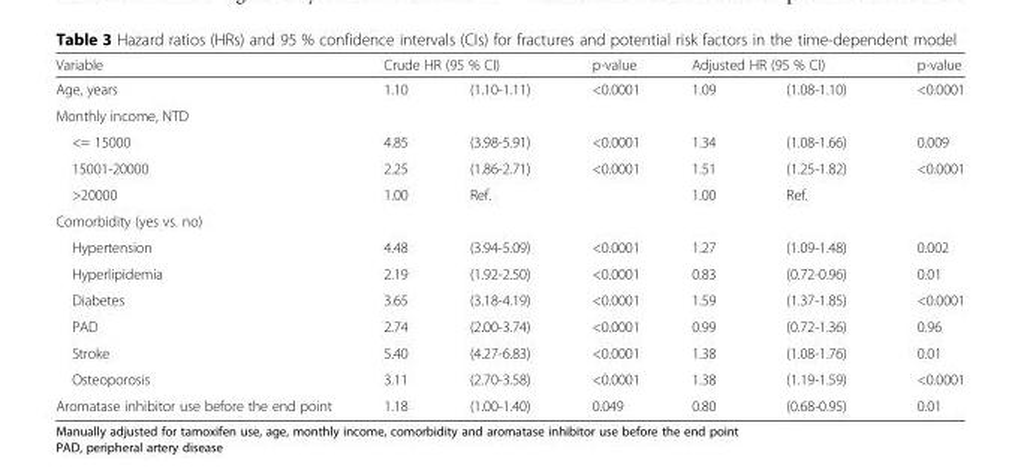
<table><thead><tr><td rowspan="2">Variable Age, years</td><td colspan="2">Crude HR (95 % CI)</td><td rowspan="2">p-value &lt;0.0001</td><td colspan="2">Adjusted HR (95 % CI)</td><td rowspan="2">p-value &lt;0.0001</td></tr><tr><td>1.10</td><td>(1.10-1.11)</td><td>1.09</td><td>(1.08-1.10)</td></tr></thead><tbody><tr><td colspan="7">Monthly income, NTD</td></tr><tr><td>&lt;= 15000</td><td>4.85</td><td>(3.98-5.91)</td><td>&lt;0.0001</td><td>1.34</td><td>(1.08-1.66)</td><td>0.009</td></tr><tr><td>15001-20000</td><td>2.25</td><td>(1.86-2.71)</td><td>&lt;0.0001</td><td>1.51</td><td>(1.25-1.82)</td><td>&lt;0.0001</td></tr><tr><td>&gt;20000</td><td>1.00</td><td>Ref.</td><td></td><td>1.00</td><td>Ref.</td><td></td></tr><tr><td colspan="7">Comorbidity (yes vs. no)</td></tr><tr><td>Hypertension</td><td>4.48</td><td>(3.94-5.09)</td><td>&lt;0.0001</td><td>1.27</td><td>(1.09-1.48)</td><td>0.002</td></tr><tr><td>Hyperlipidemia</td><td>2.19</td><td>(1.92-2.50)</td><td>&lt;0.0001</td><td>0.83</td><td>(0.72-0.96)</td><td>0.01</td></tr><tr><td>Diabetes</td><td>3.65</td><td>(3.18-4.19)</td><td>&lt;0.0001</td><td>1.59</td><td>(1.37-1.85)</td><td>&lt;0.0001</td></tr><tr><td>PAD</td><td>2.74</td><td>(2.00-3.74)</td><td>&lt;0.0001</td><td>0.99</td><td>(0.72-1.36)</td><td>0.96</td></tr><tr><td>Stroke</td><td>5.40</td><td>(4.27-6.83)</td><td>&lt;0.0001</td><td>1.38</td><td>(1.08-1.76)</td><td>0.01</td></tr><tr><td>Osteoporosis</td><td>3.11</td><td>(2.70-3.58)</td><td>&lt;0.0001</td><td>1.38</td><td>(1.19-1.59)</td><td>&lt;0.0001</td></tr><tr><td>Aromatase inhibitor use before the end point</td><td>1.18</td><td>(1.00-1.40)</td><td>0.049</td><td>0.80</td><td>(0.68-0.95)</td><td>0.01</td></tr></tbody></table>